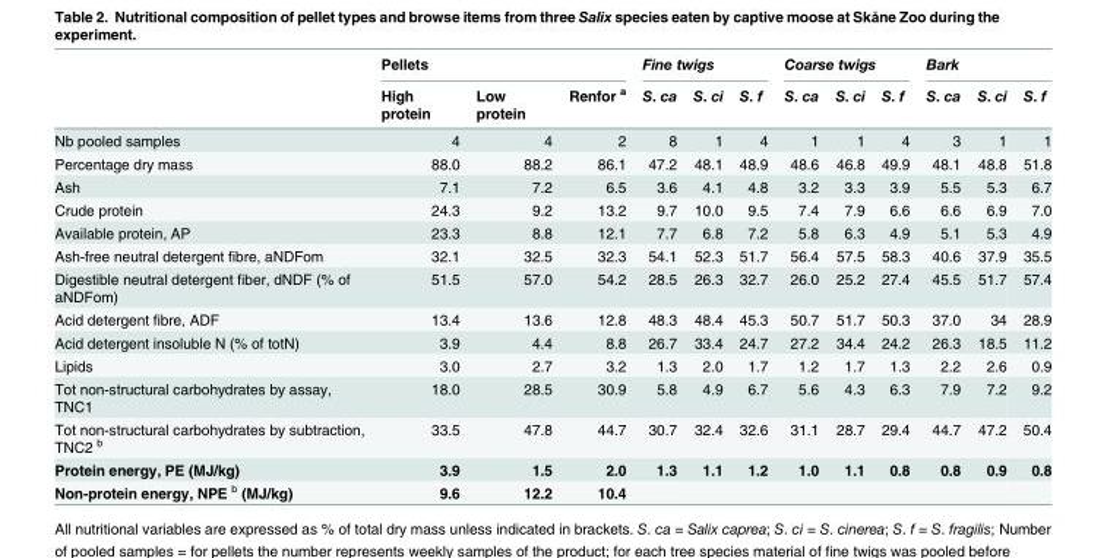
<table><thead><tr><td rowspan="2"></td><td colspan="3">Pellets</td><td colspan="3">Fine twigs</td><td colspan="3">Coarse twigs</td><td colspan="3">Bark</td></tr><tr><td>High protein</td><td>Low protein</td><td>Renfor <sup>a</sup></td><td>S. ca</td><td>S. ci</td><td>S. f</td><td>S. ca</td><td>S. ci</td><td>S. f</td><td>S. ca</td><td>S. ci</td><td>S. f</td></tr></thead><tbody><tr><td>Nb pooled samples</td><td>4</td><td>4</td><td>2</td><td>8</td><td>1</td><td>4</td><td>1</td><td>1</td><td>4</td><td>3</td><td>1</td><td>1</td></tr><tr><td>Percentage dry mass</td><td>88.0</td><td>88.2</td><td>86.1</td><td>47.2</td><td>48.1</td><td>48.9</td><td>48.6</td><td>46.8</td><td>49.9</td><td>48.1</td><td>48.8</td><td>51.8</td></tr><tr><td>Ash</td><td>7.1</td><td>7.2</td><td>6.5</td><td>3.6</td><td>4.1</td><td>4.8</td><td>3.2</td><td>3.3</td><td>3.9</td><td>5.5</td><td>5.3</td><td>6.7</td></tr><tr><td>Crude protein</td><td>24.3</td><td>9.2</td><td>13.2</td><td>9.7</td><td>10.0</td><td>9.5</td><td>7.4</td><td>7.9</td><td>6.6</td><td>6.6</td><td>6.9</td><td>7.0</td></tr><tr><td>Available protein, AP</td><td>23.3</td><td>8.8</td><td>12.1</td><td>7.7</td><td>6.8</td><td>7.2</td><td>5.8</td><td>6.3</td><td>4.9</td><td>5.1</td><td>5.3</td><td>4.9</td></tr><tr><td>Ash-free neutral detergent fibre, aNDFom</td><td>32.1</td><td>32.5</td><td>32.3</td><td>54.1</td><td>52.3</td><td>51.7</td><td>56.4</td><td>57.5</td><td>58.3</td><td>40.6</td><td>37.9</td><td>35.5</td></tr><tr><td>Digestible neutral detergent fiber, dNDF (% of aNDFom)</td><td>51.5</td><td>57.0</td><td>54.2</td><td>28.5</td><td>26.3</td><td>32.7</td><td>26.0</td><td>25.2</td><td>27.4</td><td>45.5</td><td>51.7</td><td>57.4</td></tr><tr><td>Acid detergent fibre, ADF</td><td>13.4</td><td>13.6</td><td>12.8</td><td>48.3</td><td>48.4</td><td>45.3</td><td>50.7</td><td>51.7</td><td>50.3</td><td>37.0</td><td>34</td><td>28.9</td></tr><tr><td>Acid detergent insoluble N (% of totN)</td><td>3.9</td><td>4.4</td><td>8.8</td><td>26.7</td><td>33.4</td><td>24.7</td><td>27.2</td><td>34.4</td><td>24.2</td><td>26.3</td><td>18.5</td><td>11.2</td></tr><tr><td>Lipids</td><td>3.0</td><td>2.7</td><td>3.2</td><td>1.3</td><td>2.0</td><td>1.7</td><td>1.2</td><td>1.7</td><td>1.3</td><td>2.2</td><td>2.6</td><td>0.9</td></tr><tr><td>Tot non-structural carbohydrates by assay, TNC1</td><td>18.0</td><td>28.5</td><td>30.9</td><td>5.8</td><td>4.9</td><td>6.7</td><td>5.6</td><td>4.3</td><td>6.3</td><td>7.9</td><td>7.2</td><td>9.2</td></tr><tr><td>Tot non-structural carbohydrates by subtraction, TNC2 <sup>b</sup></td><td>33.5</td><td>47.8</td><td>44.7</td><td>30.7</td><td>32.4</td><td>32.6</td><td>31.1</td><td>28.7</td><td>29.4</td><td>44.7</td><td>47.2</td><td>50.4</td></tr><tr><td>Protein energy, PE (MJ/kg)</td><td>3.9</td><td>1.5</td><td>2.0</td><td>1.3</td><td>1.1</td><td>1.2</td><td>1.0</td><td>1.1</td><td>0.8</td><td>0.8</td><td>0.9</td><td>0.8</td></tr><tr><td>Non-protein energy, NPE <sup>b</sup> (MJ/kg)</td><td>9.6</td><td>12.2</td><td>10.4</td><td></td><td></td><td></td><td></td><td></td><td></td><td></td><td></td><td></td></tr></tbody></table>